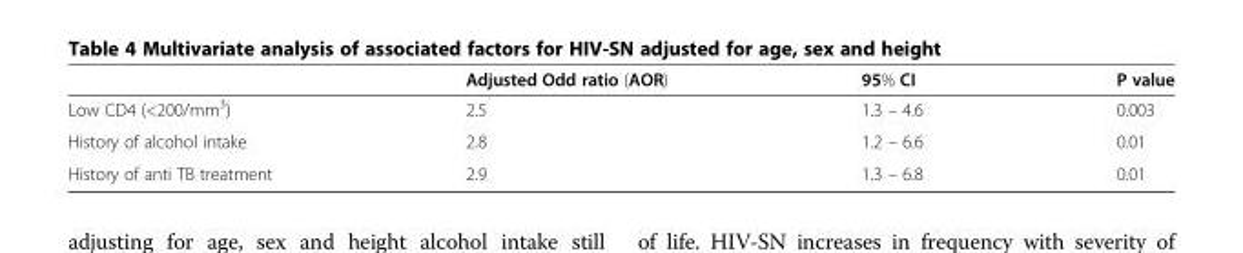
<table><thead><tr><td></td><td>Adjusted Odd ratio (AOR)</td><td>95% CI</td><td>P value</td></tr></thead><tbody><tr><td>Low CD4 (&lt;200/mm<sup>3</sup>)</td><td>2.5</td><td>1.3 – 4.6</td><td>0.003</td></tr><tr><td>History of alcohol intake</td><td>2.8</td><td>1.2 – 6.6</td><td>0.01</td></tr><tr><td>History of anti TB treatment</td><td>2.9</td><td>1.3 – 6.8</td><td>0.01</td></tr></tbody></table>